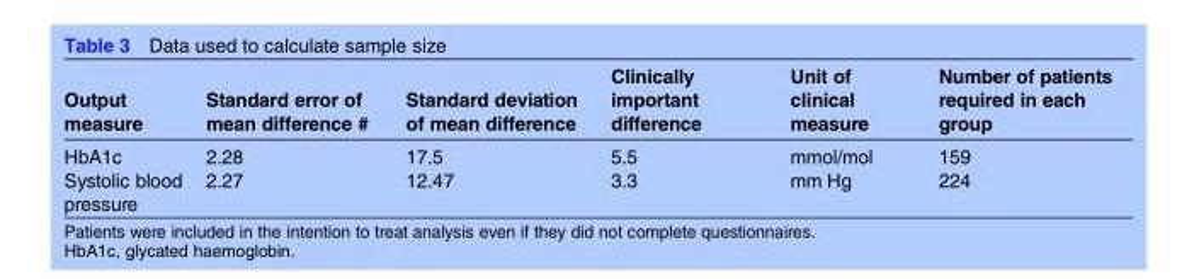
<table><thead><tr><td>Output measure</td><td>Standard error of mean difference #</td><td>Standard deviation of mean difference</td><td>Clinically important difference</td><td>Unit of clinical measure</td><td>Number of patients required in each group</td></tr></thead><tbody><tr><td>HbA1c</td><td>2.28</td><td>17.5</td><td>5.5</td><td>mmol/mol</td><td>159</td></tr><tr><td>Systolic blood pressure</td><td>2.27</td><td>12.47</td><td>3.3</td><td>mm Hg</td><td>224</td></tr></tbody></table>